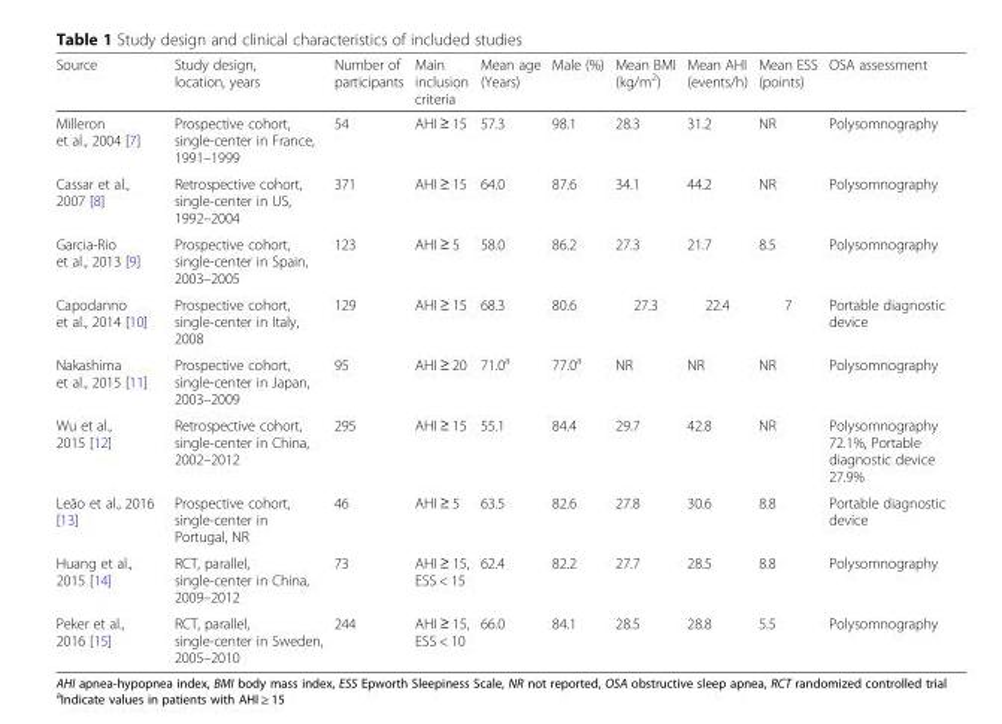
<table><thead><tr><td>Source</td><td>Study design, location, years</td><td>Number of participants</td><td>Main inclusion criteria</td><td>Mean age (Years)</td><td>Male (%)</td><td>Mean BMI (kg/m<sup>2</sup>)</td><td>Mean AHI (events/h)</td><td>Mean ESS (points)</td><td>OSA assessment</td></tr></thead><tbody><tr><td>Milleron et al., 2004 [7]</td><td>Prospective cohort, single-center in France, 1991–1999</td><td>54</td><td>AHI ≥ 15</td><td>57.3</td><td>98.1</td><td>28.3</td><td>31.2</td><td>NR</td><td>Polysomnography</td></tr><tr><td>Cassar et al., 2007 [8]</td><td>Retrospective cohort, single-center in US, 1992–2004</td><td>371</td><td>AHI ≥ 15</td><td>64.0</td><td>87.6</td><td>34.1</td><td>44.2</td><td>NR</td><td>Polysomnography</td></tr><tr><td>Garcia-Rio et al., 2013 [9]</td><td>Prospective cohort, single-center in Spain, 2003–2005</td><td>123</td><td>AHI ≥ 5</td><td>58.0</td><td>86.2</td><td>27.3</td><td>21.7</td><td>8.5</td><td>Polysomnography</td></tr><tr><td>Capodanno et al., 2014 [10]</td><td>Prospective cohort, single-center in Italy, 2008</td><td>129</td><td>AHI ≥ 15</td><td>68.3</td><td>80.6</td><td>27.3</td><td>22.4</td><td>7</td><td>Portable diagnostic device</td></tr><tr><td>Nakashima et al., 2015 [11]</td><td>Prospective cohort, single-center in Japan, 2003–2009</td><td>95</td><td>AHI ≥ 20</td><td>71.0<sup>a</sup></td><td>77.0<sup>a</sup></td><td>NR</td><td>NR</td><td>NR</td><td>Polysomnography</td></tr><tr><td>Wu et al., 2015 [12]</td><td>Retrospective cohort, single-center in China, 2002–2012</td><td>295</td><td>AHI ≥ 15</td><td>55.1</td><td>84.4</td><td>29.7</td><td>42.8</td><td>NR</td><td>Polysomnography 72.1%, Portable diagnostic device 27.9%</td></tr><tr><td>Leão et al., 2016 [13]</td><td>Prospective cohort, single-center in Portugal, NR</td><td>46</td><td>AHI ≥ 5</td><td>63.5</td><td>82.6</td><td>27.8</td><td>30.6</td><td>8.8</td><td>Portable diagnostic device</td></tr><tr><td>Huang et al., 2015 [14]</td><td>RCT, parallel, single-center in China, 2009–2012</td><td>73</td><td>AHI ≥ 15, ESS &lt; 15</td><td>62.4</td><td>82.2</td><td>27.7</td><td>28.5</td><td>8.8</td><td>Polysomnography</td></tr><tr><td>Peker et al., 2016 [15]</td><td>RCT, parallel, single-center in Sweden, 2005–2010</td><td>244</td><td>AHI ≥ 15, ESS &lt; 10</td><td>66.0</td><td>84.1</td><td>28.5</td><td>28.8</td><td>5.5</td><td>Polysomnography</td></tr></tbody></table>